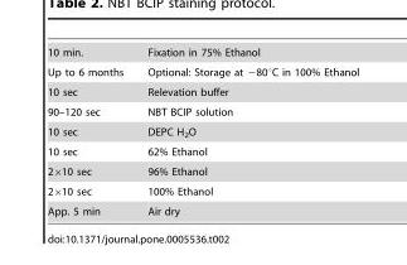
<table><tbody><tr><td>10 min.</td><td>Fixation in 75% Ethanol</td></tr><tr><td>Up to 6 months</td><td>Optional: Storage at −80°C in 100% Ethanol</td></tr><tr><td>10 sec</td><td>Relevation buffer</td></tr><tr><td>90–120 sec</td><td>NBT BCIP solution</td></tr><tr><td>10 sec</td><td>DEPC H<sub>2</sub>O</td></tr><tr><td>10 sec</td><td>62% Ethanol</td></tr><tr><td>2×10 sec</td><td>96% Ethanol</td></tr><tr><td>2×10 sec</td><td>100% Ethanol</td></tr><tr><td>App. 5 min</td><td>Air dry</td></tr></tbody></table>